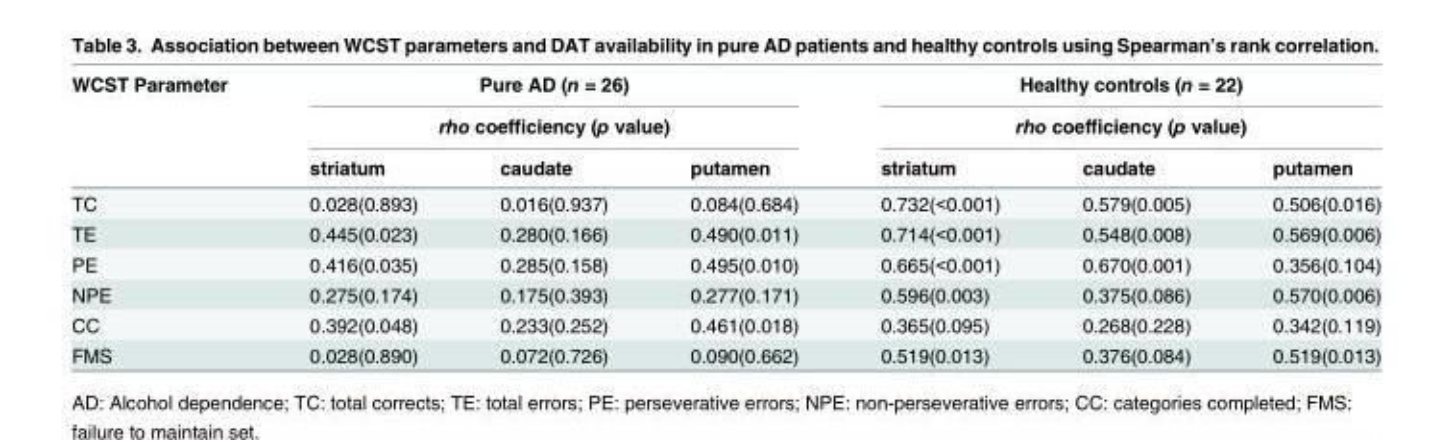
<table><thead><tr><td rowspan="3">WCST Parameter</td><td rowspan="2" colspan="3">Pure AD (n = 26) rho coefficiency (p value)</td><td rowspan="2" colspan="3">Healthy controls (n = 22) rho coefficiency (p value)</td></tr><tr></tr><tr><td>striatum</td><td>caudate</td><td>putamen</td><td>striatum</td><td>caudate</td><td>putamen</td></tr></thead><tbody><tr><td>TC</td><td>0.028(0.893)</td><td>0.016(0.937)</td><td>0.084(0.684)</td><td>0.732(&lt;0.001)</td><td>0.579(0.005)</td><td>0.506(0.016)</td></tr><tr><td>TE</td><td>0.445(0.023)</td><td>0.280(0.166)</td><td>0.490(0.011)</td><td>0.714(&lt;0.001)</td><td>0.548(0.008)</td><td>0.569(0.006)</td></tr><tr><td>PE</td><td>0.416(0.035)</td><td>0.285(0.158)</td><td>0.495(0.010)</td><td>0.665(&lt;0.001)</td><td>0.670(0.001)</td><td>0.356(0.104)</td></tr><tr><td>NPE</td><td>0.275(0.174)</td><td>0.175(0.393)</td><td>0.277(0.171)</td><td>0.596(0.003)</td><td>0.375(0.086)</td><td>0.570(0.006)</td></tr><tr><td>CC</td><td>0.392(0.048)</td><td>0.233(0.252)</td><td>0.461(0.018)</td><td>0.365(0.095)</td><td>0.268(0.228)</td><td>0.342(0.119)</td></tr><tr><td>FMS</td><td>0.028(0.890)</td><td>0.072(0.726)</td><td>0.090(0.662)</td><td>0.519(0.013)</td><td>0.376(0.084)</td><td>0.519(0.013)</td></tr></tbody></table>